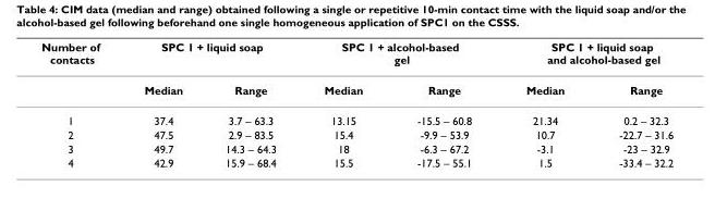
<table><thead><tr><td rowspan="2">Number of contacts</td><td colspan="2">SPC 1 + liquid soap</td><td colspan="2">SPC 1 + alcohol-based gel</td><td colspan="2">SPC 1 + liquid soap and alcohol-based gel</td></tr><tr><td>Median</td><td>Range</td><td>Median</td><td>Range</td><td>Median</td><td>Range</td></tr></thead><tbody><tr><td>1</td><td>37.4</td><td>3.7 – 63.3</td><td>13.15</td><td>-15.5 – 60.8</td><td>21.34</td><td>0.2 – 32.3</td></tr><tr><td>2</td><td>47.5</td><td>2.9 – 83.5</td><td>15.4</td><td>-9.9 – 53.9</td><td>10.7</td><td>-22.7 – 31.6</td></tr><tr><td>3</td><td>49.7</td><td>14.3 – 64.3</td><td>18</td><td>-6.3 – 67.2</td><td>-3.1</td><td>-23 – 32.9</td></tr><tr><td>4</td><td>42.9</td><td>15.9 – 68.4</td><td>15.5</td><td>-17.5 – 55.1</td><td>1.5</td><td>-33.4 – 32.2</td></tr></tbody></table>